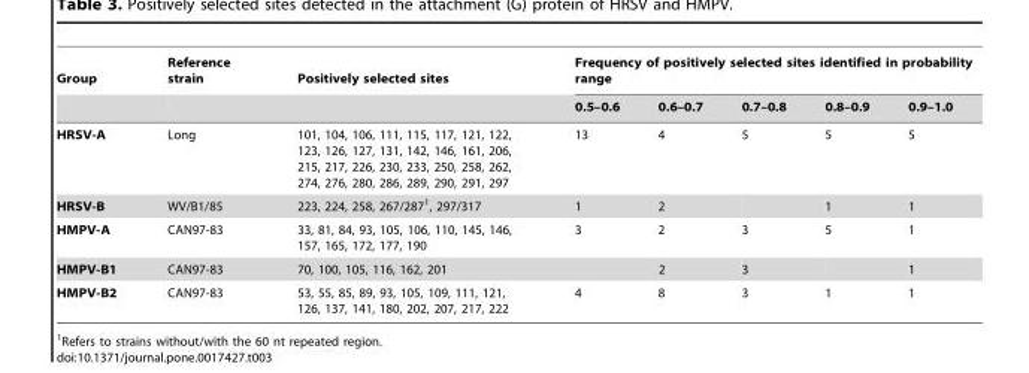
<table><thead><tr><td rowspan="2">Group</td><td rowspan="2">Reference strain</td><td rowspan="2">Positively selected sites</td><td colspan="5">Frequency of positively selected sites identified in probability range</td></tr><tr><td>0.5–0.6</td><td>0.6–0.7</td><td>0.7–0.8</td><td>0.8–0.9</td><td>0.9–1.0</td></tr></thead><tbody><tr><td>HRSV-A</td><td>Long</td><td>101, 104, 106, 111, 115, 117, 121, 122, 123, 126, 127, 131, 142, 146, 161, 206, 215, 217, 226, 230, 233, 250, 258, 262, 274, 276, 280, 286, 289, 290, 291, 297</td><td>13</td><td>4</td><td>5</td><td>5</td><td>5</td></tr><tr><td>HRSV-B</td><td>WV/B1/85</td><td>223, 224, 258, 267/287<sup>1</sup>, 297/317</td><td>1</td><td>2</td><td></td><td>1</td><td>1</td></tr><tr><td>HMPV-A</td><td>CAN97-83</td><td>33, 81, 84, 93, 105, 106, 110, 145, 146, 157, 165, 172, 177, 190</td><td>3</td><td>2</td><td>3</td><td>5</td><td>1</td></tr><tr><td>HMPV-B1</td><td>CAN97-83</td><td>70, 100, 105, 116, 162, 201</td><td></td><td>2</td><td>3</td><td></td><td>1</td></tr><tr><td>HMPV-B2</td><td>CAN97-83</td><td>53, 55, 85, 89, 93, 105, 109, 111, 121, 126, 137, 141, 180, 202, 207, 217, 222</td><td>4</td><td>8</td><td>3</td><td>1</td><td>1</td></tr></tbody></table>